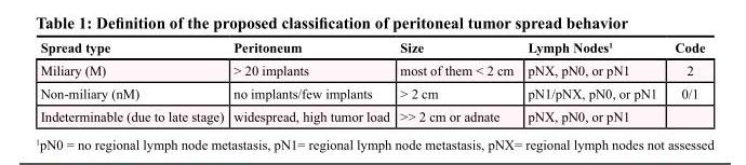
<table><thead><tr><td>Spread type</td><td>Peritoneum</td><td>Size</td><td>Lymph Nodes<sup>1</sup></td><td>Code</td></tr></thead><tbody><tr><td>Miliary (M)</td><td>&gt; 20 implants</td><td>most of them &lt; 2 cm</td><td>pNX, pN0, or pN1</td><td>2</td></tr><tr><td>Non-miliary (nM)</td><td>no implants/few implants</td><td>&gt; 2 cm</td><td>pN1/pNX, pN0, or pN1</td><td>0/1</td></tr><tr><td>Indeterminable (due to late stage)</td><td>widespread, high tumor load</td><td>&gt;&gt; 2 cm or adnate</td><td>pNX, pN0, or pN1</td><td></td></tr></tbody></table>